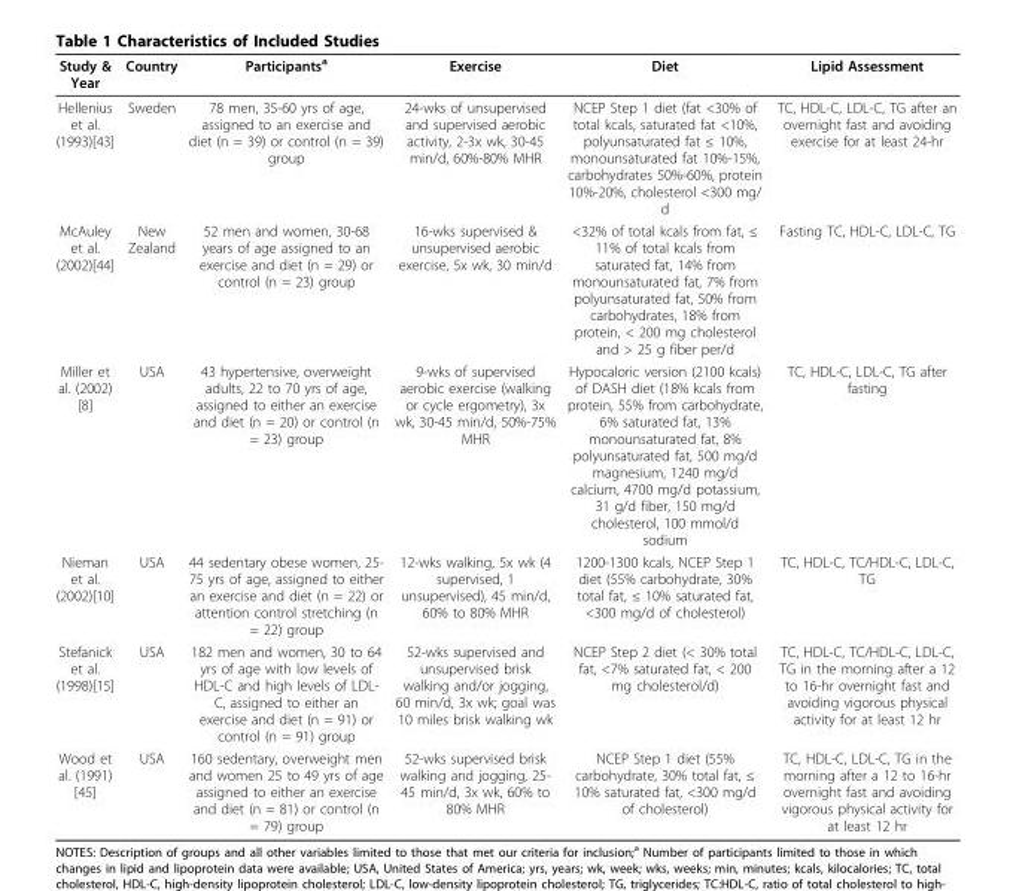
<table><thead><tr><td>Study &amp; Year</td><td>Country</td><td>Participants<sup>a</sup></td><td>Exercise</td><td>Diet</td><td>Lipid Assessment</td></tr></thead><tbody><tr><td>Hellenius et al. (1993)[43]</td><td>Sweden</td><td>78 men, 35-60 yrs of age, assigned to an exercise and diet (n = 39) or control (n = 39) group</td><td>24-wks of unsupervised and supervised aerobic activity, 2-3x wk, 30-45 min/d, 60%-80% MHR</td><td>NCEP Step 1 diet (fat &lt;30% of total kcals, saturated fat &lt;10%, polyunsaturated fat ≤ 10%, monounsaturated fat 10%-15%, carbohydrates 50%-60%, protein 10%-20%, cholesterol &lt;300 mg/ d</td><td>TC, HDL-C, LDL-C, TG after an overnight fast and avoiding exercise for at least 24-hr</td></tr><tr><td>McAuley et al. (2002)[44]</td><td>New Zealand</td><td>52 men and women, 30-68 years of age assigned to an exercise and diet (n = 29) or control (n = 23) group</td><td>16-wks supervised &amp; unsupervised aerobic exercise, 5x wk, 30 min/d</td><td>&lt;32% of total kcals from fat, ≤ 11% of total kcals from saturated fat, 14% from monounsaturated fat, 7% from polyunsaturated fat, 50% from carbohydrates, 18% from protein, &lt; 200 mg cholesterol and &gt; 25 g fiber per/d</td><td>Fasting TC, HDL-C, LDL-C, TG</td></tr><tr><td>Miller et al. (2002) [8]</td><td>USA</td><td>43 hypertensive, overweight adults, 22 to 70 yrs of age, assigned to either an exercise and diet (n = 20) or control (n = 23) group</td><td>9-wks of supervised aerobic exercise (walking or cycle ergometry), 3x wk, 30-45 min/d, 50%-75% MHR</td><td>Hypocaloric version (2100 kcals) of DASH diet (18% kcals from protein, 55% from carbohydrate, 6% saturated fat, 13% monounsaturated fat, 8% polyunsaturated fat, 500 mg/d magnesium, 1240 mg/d calcium, 4700 mg/d potassium, 31 g/d fiber, 150 mg/d cholesterol, 100 mmol/d sodium</td><td>TC, HDL-C, LDL-C, TG after fasting</td></tr><tr><td>Nieman et al. (2002)[10]</td><td>USA</td><td>44 sedentary obese women, 25- 75 yrs of age, assigned to either an exercise and diet (n = 22) or attention control stretching (n = 22) group</td><td>12-wks walking, 5x wk (4 supervised, 1 unsupervised), 45 min/d, 60% to 80% MHR</td><td>1200-1300 kcals, NCEP Step 1 diet (55% carbohydrate, 30% total fat, ≤ 10% saturated fat, &lt;300 mg/d of cholesterol)</td><td>TC, HDL-C, TC/HDL-C, LDL-C, TG</td></tr><tr><td>Stefanick et al. (1998)[15]</td><td>USA</td><td>182 men and women, 30 to 64 yrs of age with low levels of HDL-C and high levels of LDL- C, assigned to either an exercise and diet (n = 91) or control (n = 91) group</td><td>52-wks supervised and unsupervised brisk walking and/or jogging, 60 min/d, 3x wk; goal was 10 miles brisk walking wk</td><td>NCEP Step 2 diet (&lt; 30% total fat, &lt;7% saturated fat, &lt; 200 mg cholesterol/d)</td><td>TC, HDL-C, TC/HDL-C, LDL-C, TG in the morning after a 12 to 16-hr overnight fast and avoiding vigorous physical activity for at least 12 hr</td></tr><tr><td>Wood et al. (1991) [45]</td><td>USA</td><td>160 sedentary, overweight men and women 25 to 49 yrs of age assigned to either an exercise and diet (n = 81) or control (n = 79) group</td><td>52-wks supervised brisk walking and jogging, 25- 45 min/d, 3x wk, 60% to 80% MHR</td><td>NCEP Step 1 diet (55% carbohydrate, 30% total fat, ≤ 10% saturated fat, &lt;300 mg/d of cholesterol)</td><td>TC, HDL-C, LDL-C, TG in the morning after a 12 to 16-hr overnight fast and avoiding vigorous physical activity for at least 12 hr</td></tr></tbody></table>